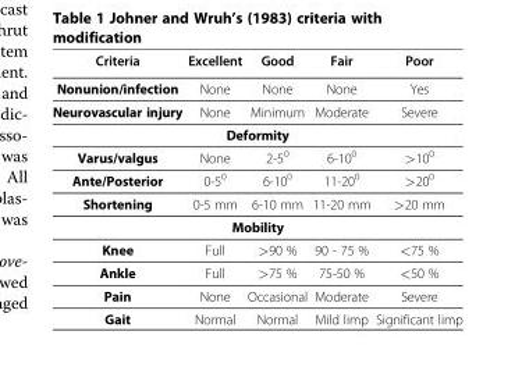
<table><thead><tr><td>Criteria</td><td>Excellent</td><td>Good</td><td>Fair</td><td>Poor</td></tr></thead><tbody><tr><td>Nonunion/infection</td><td>None</td><td>None</td><td>None</td><td>Yes</td></tr><tr><td>Neurovascular injury</td><td>None</td><td>Minimum</td><td>Moderate</td><td>Severe</td></tr><tr><td colspan="5">Deformity</td></tr><tr><td>Varus/valgus</td><td>None</td><td>2-5<sup>0</sup></td><td>6-10<sup>0</sup></td><td>&gt;10<sup>0</sup></td></tr><tr><td>Ante/Posterior</td><td>0-5<sup>0</sup></td><td>6-10<sup>0</sup></td><td>11-20<sup>0</sup></td><td>&gt;20<sup>0</sup></td></tr><tr><td>Shortening</td><td>0-5 mm</td><td>6-10 mm</td><td>11-20 mm</td><td>&gt;20 mm</td></tr><tr><td colspan="5">Mobility</td></tr><tr><td>Knee</td><td>Full</td><td>&gt;90 %</td><td>90 - 75 %</td><td>&lt;75 %</td></tr><tr><td>Ankle</td><td>Full</td><td>&gt;75 %</td><td>75-50 %</td><td>&lt;50 %</td></tr><tr><td>Pain</td><td>None</td><td>Occasional</td><td>Moderate</td><td>Severe</td></tr><tr><td>Gait</td><td>Normal</td><td>Normal</td><td>Mild limp</td><td>Significant limp</td></tr></tbody></table>